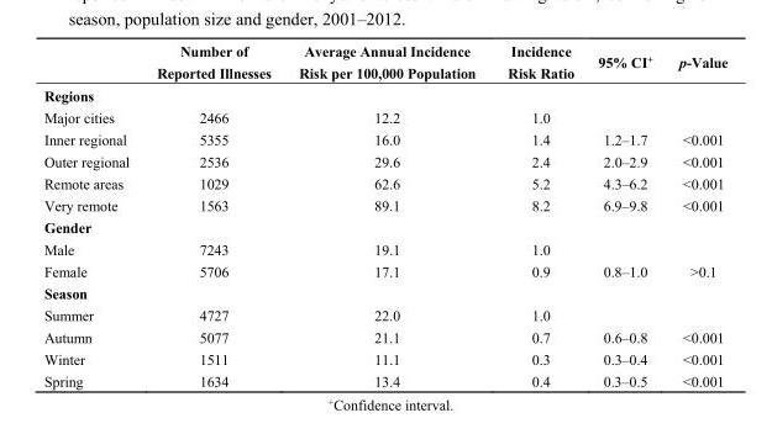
<table><thead><tr><td></td><td>Number of Reported Illnesses</td><td>Average Annual Incidence Risk per 100,000 Population</td><td>Incidence Risk Ratio</td><td>95% CI<sup>+</sup></td><td>p-Value</td></tr></thead><tbody><tr><td colspan="6">Regions</td></tr><tr><td>Major cities</td><td>2466</td><td>12.2</td><td>1.0</td><td></td><td></td></tr><tr><td>Inner regional</td><td>5355</td><td>16.0</td><td>1.4</td><td>1.2–1.7</td><td>&lt;0.001</td></tr><tr><td>Outer regional</td><td>2536</td><td>29.6</td><td>2.4</td><td>2.0–2.9</td><td>&lt;0.001</td></tr><tr><td>Remote areas</td><td>1029</td><td>62.6</td><td>5.2</td><td>4.3–6.2</td><td>&lt;0.001</td></tr><tr><td>Very remote</td><td>1563</td><td>89.1</td><td>8.2</td><td>6.9–9.8</td><td>&lt;0.001</td></tr><tr><td colspan="6">Gender</td></tr><tr><td>Male</td><td>7243</td><td>19.1</td><td>1.0</td><td></td><td></td></tr><tr><td>Female</td><td>5706</td><td>17.1</td><td>0.9</td><td>0.8–1.0</td><td>&gt;0.1</td></tr><tr><td colspan="6">Season</td></tr><tr><td>Summer</td><td>4727</td><td>22.0</td><td>1.0</td><td></td><td></td></tr><tr><td>Autumn</td><td>5077</td><td>21.1</td><td>0.7</td><td>0.6–0.8</td><td>&lt;0.001</td></tr><tr><td>Winter</td><td>1511</td><td>11.1</td><td>0.3</td><td>0.3–0.4</td><td>&lt;0.001</td></tr><tr><td>Spring</td><td>1634</td><td>13.4</td><td>0.4</td><td>0.3–0.5</td><td>&lt;0.001</td></tr></tbody></table>